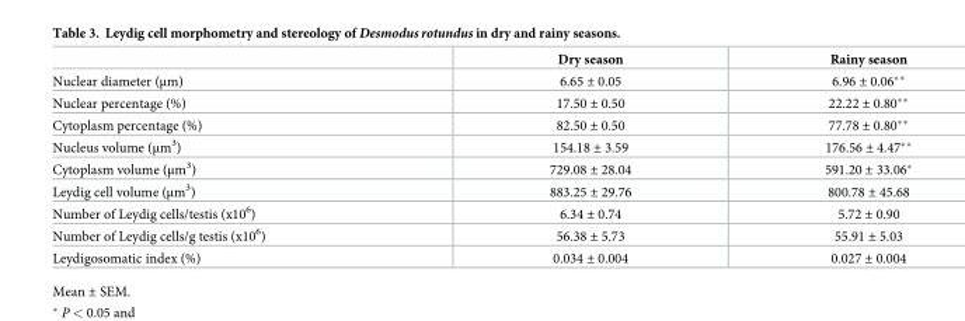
<table><thead><tr><td></td><td>Dry season</td><td>Rainy season</td></tr></thead><tbody><tr><td>Nuclear diameter (μm)</td><td>6.65 ± 0.05</td><td>6.96 ± 0.06**</td></tr><tr><td>Nuclear percentage (%)</td><td>17.50 ± 0.50</td><td>22.22 ± 0.80**</td></tr><tr><td>Cytoplasm percentage (%)</td><td>82.50 ± 0.50</td><td>77.78 ± 0.80**</td></tr><tr><td>Nucleus volume (μm<sup>3</sup>)</td><td>154.18 ± 3.59</td><td>176.56 ± 4.47**</td></tr><tr><td>Cytoplasm volume (μm<sup>3</sup>)</td><td>729.08 ± 28.04</td><td>591.20 ± 33.06*</td></tr><tr><td>Leydig cell volume (μm<sup>3</sup>)</td><td>883.25 ± 29.76</td><td>800.78 ± 45.68</td></tr><tr><td>Number of Leydig cells/testis (x10<sup>6</sup>)</td><td>6.34 ± 0.74</td><td>5.72 ± 0.90</td></tr><tr><td>Number of Leydig cells/g testis (x10<sup>6</sup>)</td><td>56.38 ± 5.73</td><td>55.91 ± 5.03</td></tr><tr><td>Leydigosomatic index (%)</td><td>0.034 ± 0.004</td><td>0.027 ± 0.004</td></tr></tbody></table>